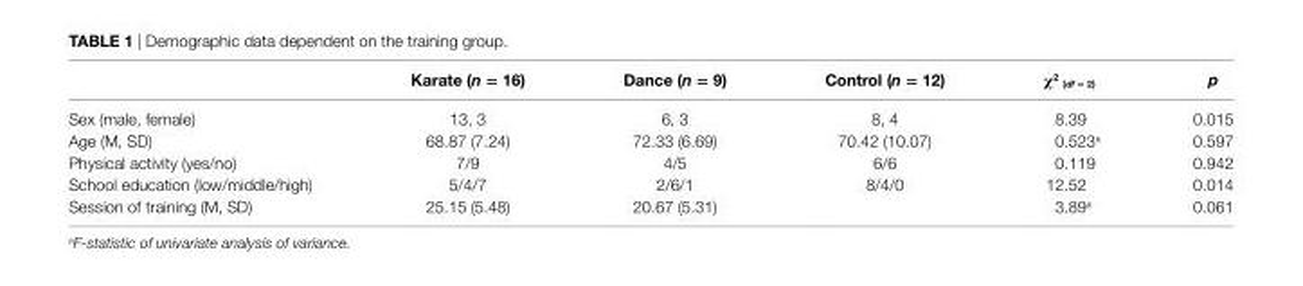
<table><thead><tr><td></td><td>Karate (n = 16)</td><td>Dance (n = 9)</td><td>control (n = 12)</td><td>χ<sup>2</sup> (df = 2)</td><td>p</td></tr></thead><tbody><tr><td>Sex (male, female)</td><td>13, 3</td><td>6, 3</td><td>8, 4</td><td>8.39</td><td>0.015</td></tr><tr><td>Age (M, SD)</td><td>68.87 (7.24)</td><td>72.33 (6.69)</td><td>70.42 (10.07)</td><td>0.523<sup>a</sup></td><td>0.597</td></tr><tr><td>Physical activity (yes/no)</td><td>7/9</td><td>4/5</td><td>6/6</td><td>0.119</td><td>0.942</td></tr><tr><td>School education (low/middle/high)</td><td>5/4/7</td><td>2/6/1</td><td>8/4/0</td><td>12.52</td><td>0.014</td></tr><tr><td>Session of training (M, SD)</td><td>25.15 (5.48)</td><td>20.67 (5.31)</td><td></td><td>3.89<sup>a</sup></td><td>0.061</td></tr></tbody></table>